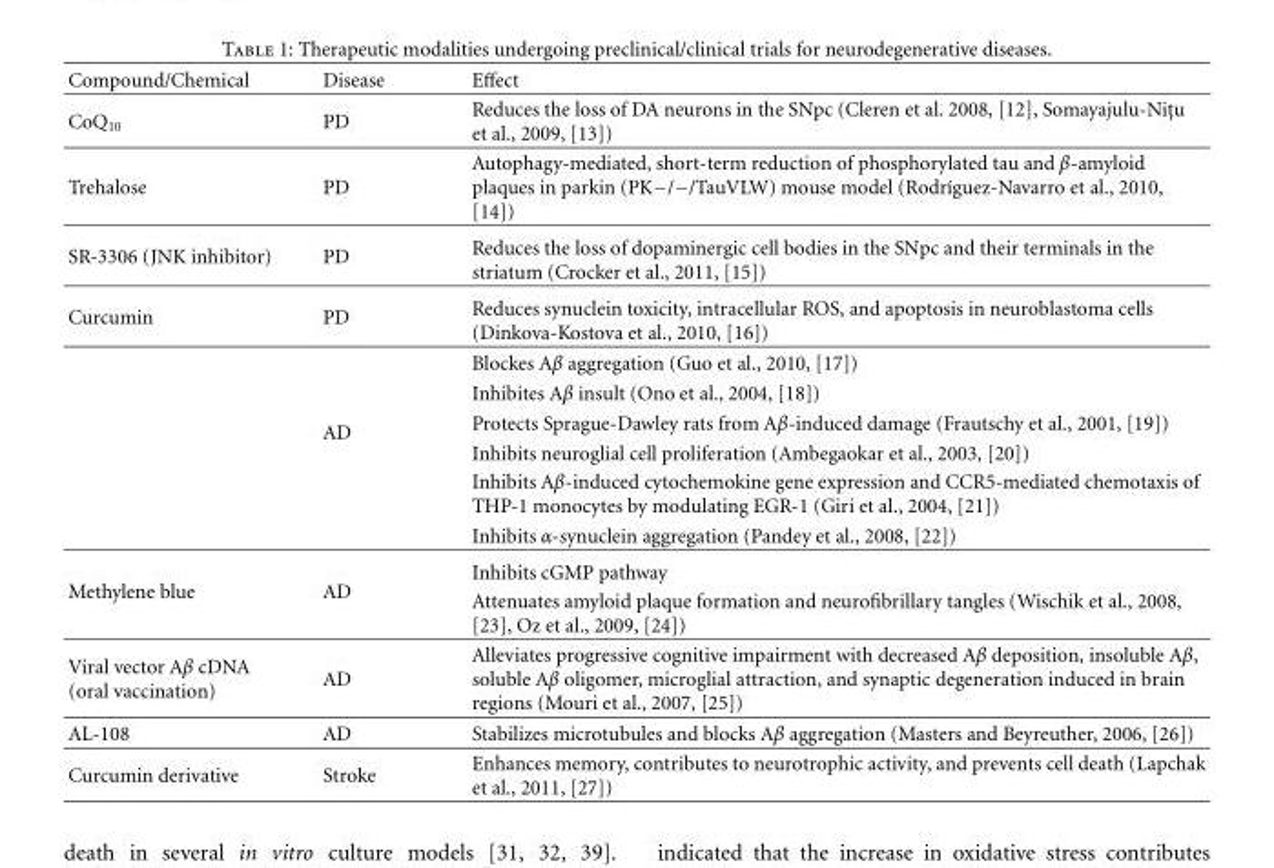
<table><thead><tr><td>Compound/Chemical</td><td>Disease</td><td>Effect</td></tr></thead><tbody><tr><td>CoQ10</td><td>PD</td><td>Reduces the loss of DA neurons in the SNpc (Cleren et al. 2008, [12], Somayajulu-Nit¸u et al., 2009, [13])</td></tr><tr><td>Trehalose</td><td>PD</td><td>Autophagy-mediated, short-term reduction of phosphorylated tau and β-amyloid plaques in parkin (PK−/−/TauVLW) mouse model (Rodr´ıguez-Navarro et al., 2010, [14])</td></tr><tr><td>SR-3306 (JNK inhibitor)</td><td>PD</td><td>Reduces the loss of dopaminergic cell bodies in the SNpc and their terminals in the striatum (Crocker et al., 2011, [15])</td></tr><tr><td rowspan="7">Curcumin</td><td>PD</td><td>Reduces synuclein toxicity, intracellular ROS, and apoptosis in neuroblastoma cells (Dinkova-Kostova et al., 2010, [16])</td></tr><tr><td rowspan="6">AD</td><td>Blockes Aβ aggregation (Guo et al., 2010, [17])</td></tr><tr><td>Inhibites Aβ insult (Ono et al., 2004, [18])</td></tr><tr><td>Protects Sprague-Dawley rats from Aβ-induced damage (Frautschy et al., 2001, [19])</td></tr><tr><td>Inhibits neuroglial cell proliferation (Ambegaokar et al., 2003, [20])</td></tr><tr><td>Inhibits Aβ-induced cytochemokine gene expression and CCR5-mediated chemotaxis of THP-1 monocytes by modulating EGR-1 (Giri et al., 2004, [21])</td></tr><tr><td>Inhibits α-synuclein aggregation (Pandey et al., 2008, [22])</td></tr><tr><td rowspan="2">Methylene blue</td><td rowspan="2">AD</td><td>Inhibits cGMP pathway</td></tr><tr><td>Attenuates amyloid plaque formation and neurofibrillary tangles (Wischik et al., 2008, [23], Oz et al., 2009, [24])</td></tr><tr><td>Viral vector Aβ cDNA (oral vaccination)</td><td>AD</td><td>Alleviates progressive cognitive impairment with decreased Aβ deposition, insoluble Aβ, soluble Aβ oligomer, microglial attraction, and synaptic degeneration induced in brain regions (Mouri et al., 2007, [25])</td></tr><tr><td>AL-108</td><td>AD</td><td>Stabilizes microtubules and blocks Aβ aggregation (Masters and Beyreuther, 2006, [26])</td></tr><tr><td>Curcumin derivative</td><td>Stroke</td><td>Enhances memory, contributes to neurotrophic activity, and prevents cell death (Lapchak et al., 2011, [27])</td></tr></tbody></table>